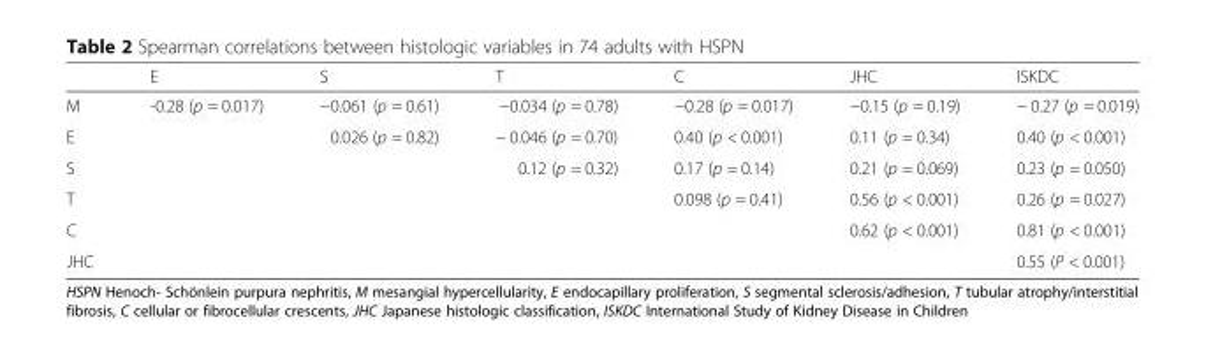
<table><thead><tr><td></td><td>E</td><td>S</td><td>T</td><td>C</td><td>JHC</td><td>ISKDC</td></tr></thead><tbody><tr><td>M</td><td>-0.28 (p = 0.017)</td><td>−0.061 (p = 0.61)</td><td>−0.034 (p = 0.78)</td><td>−0.28 (p = 0.017)</td><td>−0.15 (p = 0.19)</td><td>− 0.27 (p = 0.019)</td></tr><tr><td>E</td><td></td><td>0.026 (p = 0.82)</td><td>− 0.046 (p = 0.70)</td><td>0.40 (p &lt; 0.001)</td><td>0.11 (p = 0.34)</td><td>0.40 (p &lt; 0.001)</td></tr><tr><td>S</td><td></td><td></td><td>0.12 (p = 0.32)</td><td>0.17 (p = 0.14)</td><td>0.21 (p = 0.069)</td><td>0.23 (p = 0.050)</td></tr><tr><td>T</td><td></td><td></td><td></td><td>0.098 (p = 0.41)</td><td>0.56 (p &lt; 0.001)</td><td>0.26 (p = 0.027)</td></tr><tr><td>C</td><td></td><td></td><td></td><td></td><td>0.62 (p &lt; 0.001)</td><td>0.81 (p &lt; 0.001)</td></tr><tr><td>JHC</td><td></td><td></td><td></td><td></td><td></td><td>0.55 (P &lt; 0.001)</td></tr></tbody></table>